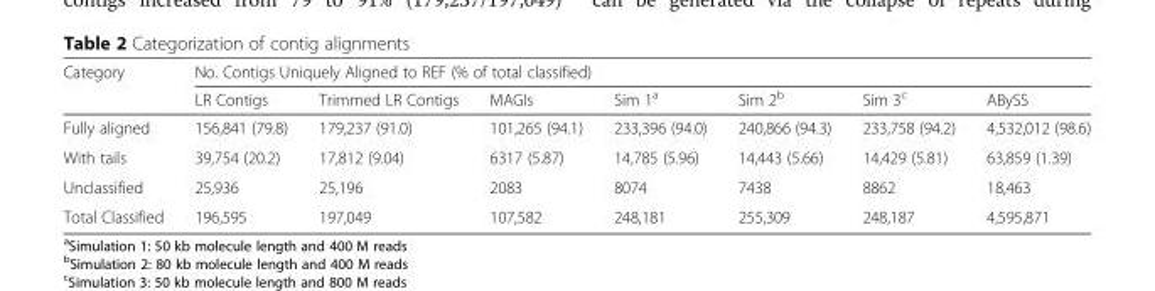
<table><thead><tr><td rowspan="2">Category</td><td colspan="7">No. Contigs Uniquely Aligned to REF (% of total classified)</td></tr><tr><td>LR Contigs</td><td>Trimmed LR Contigs</td><td>MAGIs</td><td>Sim 1<sup>a</sup></td><td>Sim 2<sup>b</sup></td><td>Sim 3<sup>c</sup></td><td>ABySS</td></tr></thead><tbody><tr><td>Fully aligned</td><td>156,841 (79.8)</td><td>179,237 (91.0)</td><td>101,265 (94.1)</td><td>233,396 (94.0)</td><td>240,866 (94.3)</td><td>233,758 (94.2)</td><td>4,532,012 (98.6)</td></tr><tr><td>With tails</td><td>39,754 (20.2)</td><td>17,812 (9.04)</td><td>6317 (5.87)</td><td>14,785 (5.96)</td><td>14,443 (5.66)</td><td>14,429 (5.81)</td><td>63,859 (1.39)</td></tr><tr><td>Unclassified</td><td>25,936</td><td>25,196</td><td>2083</td><td>8074</td><td>7438</td><td>8862</td><td>18,463</td></tr><tr><td>Total Classified</td><td>196,595</td><td>197,049</td><td>107,582</td><td>248,181</td><td>255,309</td><td>248,187</td><td>4,595,871</td></tr></tbody></table>